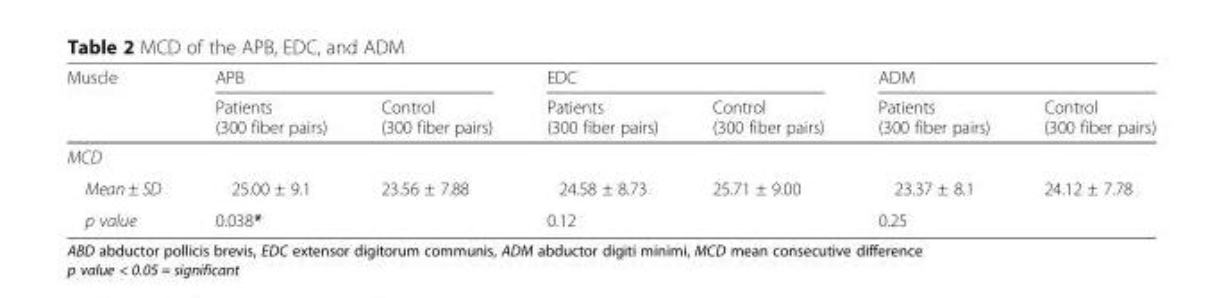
<table><thead><tr><td rowspan="2">Muscle</td><td colspan="2">APB</td><td colspan="2">EDC</td><td colspan="2">ADM</td></tr><tr><td>Patients (300 fiber pairs)</td><td>Control (300 fiber pairs)</td><td>Patients (300 fiber pairs)</td><td>Control (300 fiber pairs)</td><td>Patients (300 fiber pairs)</td><td>Control (300 fiber pairs)</td></tr></thead><tbody><tr><td colspan="7">MCD</td></tr><tr><td>Mean ± SD</td><td>25.00 ± 9.1</td><td>23.56 ± 7.88</td><td>24.58 ± 8.73</td><td>25.71 ± 9.00</td><td>23.37 ± 8.1</td><td>24.12 ± 7.78</td></tr><tr><td>p value</td><td colspan="2">0.038*</td><td colspan="2">0.12</td><td colspan="2">0.25</td></tr></tbody></table>